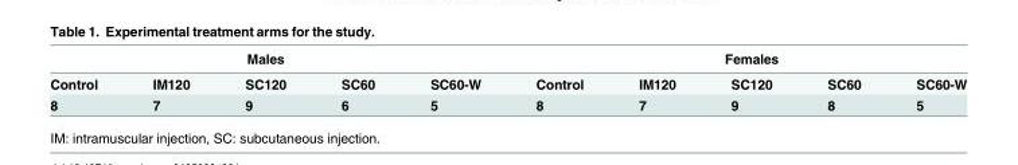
<table><thead><tr><td colspan="5">Males</td><td colspan="5">Females</td></tr><tr><td>Control</td><td>IM120</td><td>SC120</td><td>SC60</td><td>SC60-W</td><td>Control</td><td>IM120</td><td>SC120</td><td>SC60</td><td>SC60-W</td></tr></thead><tbody><tr><td>8</td><td>7</td><td>9</td><td>6</td><td>5</td><td>8</td><td>7</td><td>9</td><td>8</td><td>5</td></tr></tbody></table>